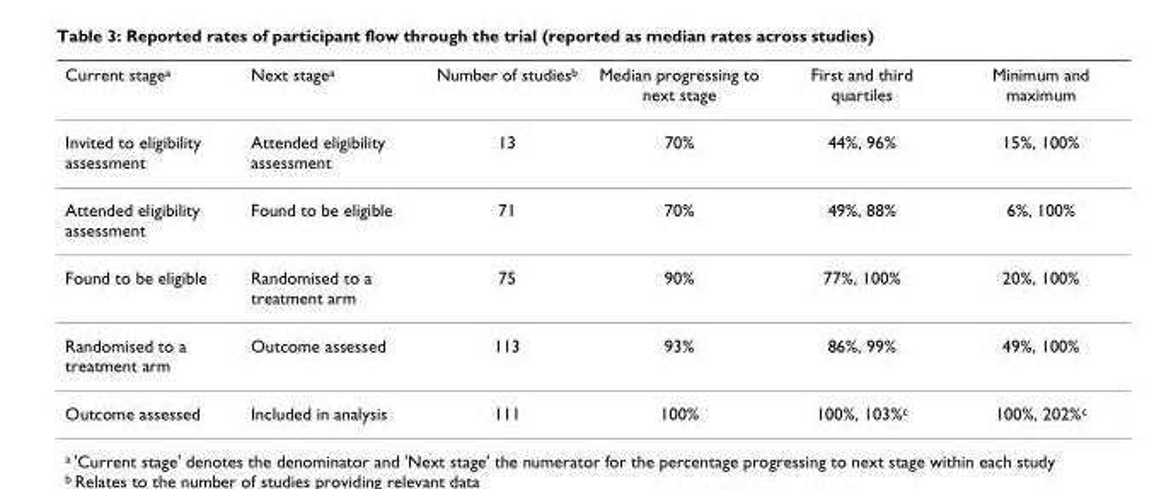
<table><thead><tr><td>Current stage<sup>a</sup></td><td>Next stage<sup>a</sup></td><td>Number of studies<sup>b</sup></td><td>Median progressing to next stage</td><td>First and third quartiles</td><td>Minimum and maximum</td></tr></thead><tbody><tr><td>Invited to eligibility assessment</td><td>Attended eligibility assessment</td><td>13</td><td>70%</td><td>44%, 96%</td><td>15%, 100%</td></tr><tr><td>Attended eligibility assessment</td><td>Found to be eligible</td><td>71</td><td>70%</td><td>49%, 88%</td><td>6%, 100%</td></tr><tr><td>Found to be eligible</td><td>Randomised to a treatment arm</td><td>75</td><td>90%</td><td>77%, 100%</td><td>20%, 100%</td></tr><tr><td>Randomised to a treatment arm</td><td>Outcome assessed</td><td>113</td><td>93%</td><td>86%, 99%</td><td>49%, 100%</td></tr><tr><td>Outcome assessed</td><td>Included in analysis</td><td>111</td><td>100%</td><td>100%, 103%<sup>c</sup></td><td>100%, 202%<sup>c</sup></td></tr></tbody></table>